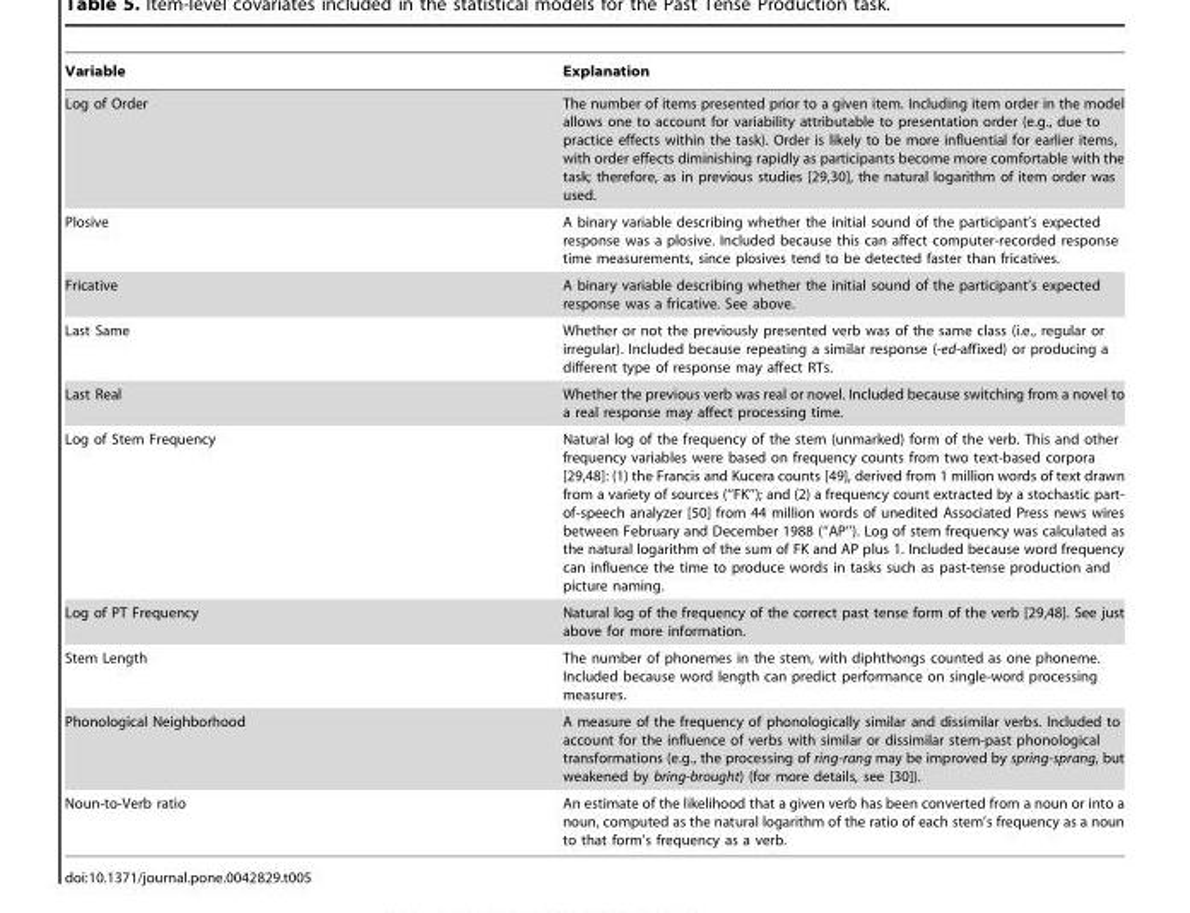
<table><thead><tr><td>Variable</td><td>Explanation</td></tr></thead><tbody><tr><td>Log of Order</td><td>The number of items presented prior to a given item. Including item order in the model allows one to account for variability attributable to presentation order (e.g., due to practice effects within the task). Order is likely to be more influential for earlier items, with order effects diminishing rapidly as participants become more comfortable with the task; therefore, as in previous studies [29,30], the natural logarithm of item order was used.</td></tr><tr><td>Plosive</td><td>A binary variable describing whether the initial sound of the participant’s expected response was a plosive. Included because this can affect computer-recorded response time measurements, since plosives tend to be detected faster than fricatives.</td></tr><tr><td>Fricative</td><td>A binary variable describing whether the initial sound of the participant’s expected response was a fricative. See above.</td></tr><tr><td>Last Same</td><td>Whether or not the previously presented verb was of the same class (i.e., regular or irregular). Included because repeating a similar response (-ed-affixed) or producing a different type of response may affect RTs.</td></tr><tr><td>Last Real</td><td>Whether the previous verb was real or novel. Included because switching from a novel to a real response may affect processing time.</td></tr><tr><td>Log of Stem Frequency</td><td>Natural log of the frequency of the stem (unmarked) form of the verb. This and other frequency variables were based on frequency counts from two text-based corpora [29,48]: (1) the Francis and Kucera counts [49], derived from 1 million words of text drawn from a variety of sources (‘‘FK’’); and (2) a frequency count extracted by a stochastic part- of-speech analyzer [50] from 44 million words of unedited Associated Press news wires between February and December 1988 (‘‘AP’’). Log of stem frequency was calculated as the natural logarithm of the sum of FK and AP plus 1. Included because word frequency can influence the time to produce words in tasks such as past-tense production and picture naming.</td></tr><tr><td>Log of PT Frequency</td><td>Natural log of the frequency of the correct past tense form of the verb [29,48]. See just above for more information.</td></tr><tr><td>Stem Length</td><td>The number of phonemes in the stem, with diphthongs counted as one phoneme. Included because word length can predict performance on single-word processing measures.</td></tr><tr><td>Phonological Neighborhood</td><td>A measure of the frequency of phonologically similar and dissimilar verbs. Included to account for the influence of verbs with similar or dissimilar stem-past phonological transformations (e.g., the processing of ring-rang may be improved by spring-sprang, but weakened by bring-brought) (for more details, see [30]).</td></tr><tr><td>Noun-to-Verb ratio</td><td>An estimate of the likelihood that a given verb has been converted from a noun or into a noun, computed as the natural logarithm of the ratio of each stem’s frequency as a noun to that form’s frequency as a verb.</td></tr></tbody></table>